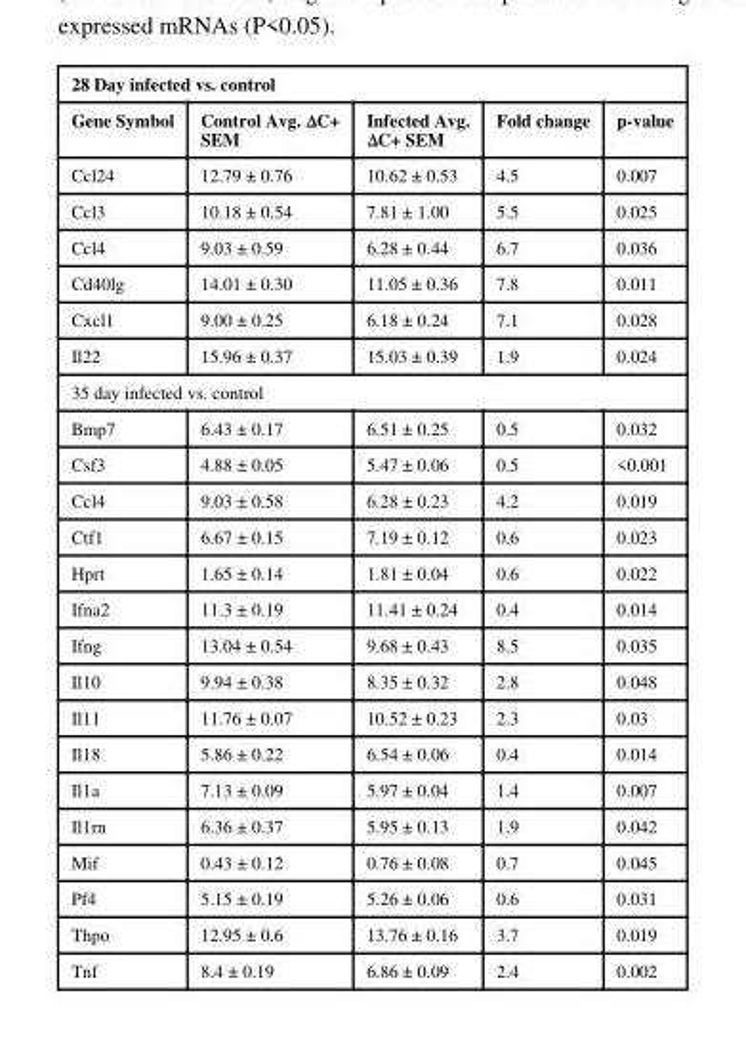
<table><thead><tr><td colspan="5">28 Day infected vs. control</td></tr><tr><td>Gene Symbol</td><td>Control Avg. ΔC+ SEM</td><td>Infected Avg. ΔC+ SEM</td><td>Fold change</td><td>p-value</td></tr></thead><tbody><tr><td>Ccl24</td><td>12.79 ± 0.76</td><td>10.62 ± 0.53</td><td>4.5</td><td>0.007</td></tr><tr><td>Ccl3</td><td>10.18 ± 0.54</td><td>7.81 ± 1.00</td><td>5.5</td><td>0.025</td></tr><tr><td>Ccl4</td><td>9.03 ± 0.59</td><td>6.28 ± 0.44</td><td>6.7</td><td>0.036</td></tr><tr><td>Cd40lg</td><td>14.01 ± 0.30</td><td>11.05 ± 0.36</td><td>7.8</td><td>0.011</td></tr><tr><td>Cxcl1</td><td>9.00 ± 0.25</td><td>6.18 ± 0.24</td><td>7.1</td><td>0.028</td></tr><tr><td>Il22</td><td>15.96 ± 0.37</td><td>15.03 ± 0.39</td><td>1.9</td><td>0.024</td></tr><tr><td colspan="5">35 day infected vs. control</td></tr><tr><td>Bmp7</td><td>6.43 ± 0.17</td><td>6.51 ± 0.25</td><td>0.5</td><td>0.032</td></tr><tr><td>Csf3</td><td>4.88 ± 0.05</td><td>5.47 ± 0.06</td><td>0.5</td><td>&lt;0.001</td></tr><tr><td>Ccl4</td><td>9.03 ± 0.58</td><td>6.28 ± 0.23</td><td>4.2</td><td>0.019</td></tr><tr><td>Ctf1</td><td>6.67 ± 0.15</td><td>7.19 ± 0.12</td><td>0.6</td><td>0.023</td></tr><tr><td>Hprt</td><td>1.65 ± 0.14</td><td>1.81 ± 0.04</td><td>0.6</td><td>0.022</td></tr><tr><td>Ifna2</td><td>11.3 ± 0.19</td><td>11.41 ± 0.24</td><td>0.4</td><td>0.014</td></tr><tr><td>Ifng</td><td>13.04 ± 0.54</td><td>9.68 ± 0.43</td><td>8.5</td><td>0.035</td></tr><tr><td>Il10</td><td>9.94 ± 0.38</td><td>8.35 ± 0.32</td><td>2.8</td><td>0.048</td></tr><tr><td>Il11</td><td>11.76 ± 0.07</td><td>10.52 ± 0.23</td><td>2.3</td><td>0.03</td></tr><tr><td>Il18</td><td>5.86 ± 0.22</td><td>6.54 ± 0.06</td><td>0.4</td><td>0.014</td></tr><tr><td>Il1a</td><td>7.13 ± 0.09</td><td>5.97 ± 0.04</td><td>1.4</td><td>0.007</td></tr><tr><td>Il1rn</td><td>6.36 ± 0.37</td><td>5.95 ± 0.13</td><td>1.9</td><td>0.042</td></tr><tr><td>Mif</td><td>0.43 ± 0.12</td><td>0.76 ± 0.08</td><td>0.7</td><td>0.045</td></tr><tr><td>Pf4</td><td>5.15 ± 0.19</td><td>5.26 ± 0.06</td><td>0.6</td><td>0.031</td></tr><tr><td>Thpo</td><td>12.95 ± 0.6</td><td>13.76 ± 0.16</td><td>3.7</td><td>0.019</td></tr><tr><td>Tnf</td><td>8.4 ± 0.19</td><td>6.86 ± 0.09</td><td>2.4</td><td>0.002</td></tr></tbody></table>